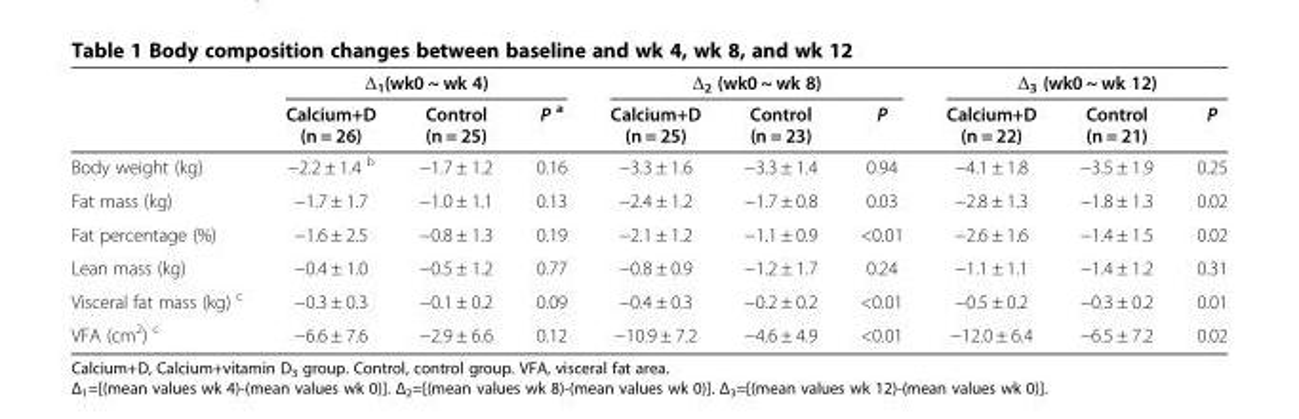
<table><thead><tr><td rowspan="2"></td><td colspan="3">Δ<sub>1</sub>(wk0 ~ wk 4)</td><td colspan="3">Δ<sub>2</sub> (wk0 ~ wk 8)</td><td colspan="3">Δ<sub>3</sub> (wk0 ~ wk 12)</td></tr><tr><td>Calcium+D (n = 26)</td><td>Control (n = 25)</td><td>P <sup>a</sup></td><td>Calcium+D (n = 25)</td><td>Control (n = 23)</td><td>P</td><td>Calcium+D (n = 22)</td><td>Control (n = 21)</td><td>P</td></tr></thead><tbody><tr><td>Body weight (kg)</td><td>−2.2 ± 1.4 <sup>b</sup></td><td>−1.7 ± 1.2</td><td>0.16</td><td>−3.3 ± 1.6</td><td>−3.3 ± 1.4</td><td>0.94</td><td>−4.1 ± 1.8</td><td>−3.5 ± 1.9</td><td>0.25</td></tr><tr><td>Fat mass (kg)</td><td>−1.7 ± 1.7</td><td>−1.0 ± 1.1</td><td>0.13</td><td>−2.4 ± 1.2</td><td>−1.7 ± 0.8</td><td>0.03</td><td>−2.8 ± 1.3</td><td>−1.8 ± 1.3</td><td>0.02</td></tr><tr><td>Fat percentage (%)</td><td>−1.6 ± 2.5</td><td>−0.8 ± 1.3</td><td>0.19</td><td>−2.1 ± 1.2</td><td>−1.1 ± 0.9</td><td>&lt;0.01</td><td>−2.6 ± 1.6</td><td>−1.4 ± 1.5</td><td>0.02</td></tr><tr><td>Lean mass (kg)</td><td>−0.4 ± 1.0</td><td>−0.5 ± 1.2</td><td>0.77</td><td>−0.8 ± 0.9</td><td>−1.2 ± 1.7</td><td>0.24</td><td>−1.1 ± 1.1</td><td>−1.4 ± 1.2</td><td>0.31</td></tr><tr><td>Visceral fat mass (kg) <sup>c</sup></td><td>−0.3 ± 0.3</td><td>−0.1 ± 0.2</td><td>0.09</td><td>−0.4 ± 0.3</td><td>−0.2 ± 0.2</td><td>&lt;0.01</td><td>−0.5 ± 0.2</td><td>−0.3 ± 0.2</td><td>0.01</td></tr><tr><td>VFA (cm<sup>2</sup>) <sup>c</sup></td><td>−6.6 ± 7.6</td><td>−2.9 ± 6.6</td><td>0.12</td><td>−10.9 ± 7.2</td><td>−4.6 ± 4.9</td><td>&lt;0.01</td><td>−12.0 ± 6.4</td><td>−6.5 ± 7.2</td><td>0.02</td></tr></tbody></table>